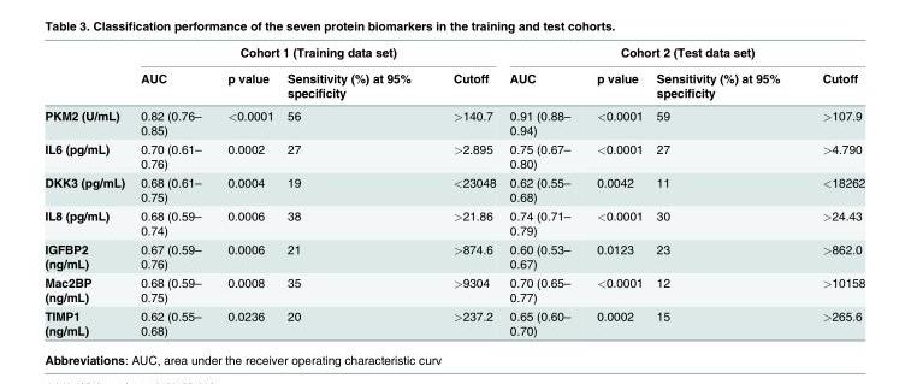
<table><thead><tr><td rowspan="2"></td><td colspan="4">Cohort 1 (Training data set)</td><td colspan="4">Cohort 2 (Test data set)</td></tr><tr><td>AUC</td><td>p value</td><td>Sensitivity (%) at 95% specificity</td><td>Cutoff</td><td>AUC</td><td>p value</td><td>Sensitivity (%) at 95% specificity</td><td>Cutoff</td></tr></thead><tbody><tr><td>PKM2 (U/mL)</td><td>0.82 (0.76– 0.85)</td><td>&lt;0.0001</td><td>56</td><td>&gt;140.7</td><td>0.91 (0.88– 0.94)</td><td>&lt;0.0001</td><td>59</td><td>&gt;107.9</td></tr><tr><td>IL6 (pg/mL)</td><td>0.70 (0.61– 0.76)</td><td>0.0002</td><td>27</td><td>&gt;2.895</td><td>0.75 (0.67– 0.80)</td><td>&lt;0.0001</td><td>27</td><td>&gt;4.790</td></tr><tr><td>DKK3 (pg/mL)</td><td>0.68 (0.61– 0.75)</td><td>0.0004</td><td>19</td><td>&lt;23048</td><td>0.62 (0.55– 0.68)</td><td>0.0042</td><td>11</td><td>&lt;18262</td></tr><tr><td>IL8 (pg/mL)</td><td>0.68 (0.59– 0.74)</td><td>0.0006</td><td>38</td><td>&gt;21.86</td><td>0.74 (0.71– 0.79)</td><td>&lt;0.0001</td><td>30</td><td>&gt;24.43</td></tr><tr><td>IGFBP2 (ng/mL)</td><td>0.67 (0.59– 0.76)</td><td>0.0006</td><td>21</td><td>&gt;874.6</td><td>0.60 (0.53– 0.67)</td><td>0.0123</td><td>23</td><td>&gt;862.0</td></tr><tr><td>Mac2BP (ng/mL)</td><td>0.68 (0.59– 0.75)</td><td>0.0008</td><td>35</td><td>&gt;9304</td><td>0.70 (0.65– 0.77)</td><td>&lt;0.0001</td><td>12</td><td>&gt;10158</td></tr><tr><td>TIMP1 (ng/mL)</td><td>0.62 (0.55– 0.68)</td><td>0.0236</td><td>20</td><td>&gt;237.2</td><td>0.65 (0.60– 0.70)</td><td>0.0002</td><td>15</td><td>&gt;265.6</td></tr></tbody></table>